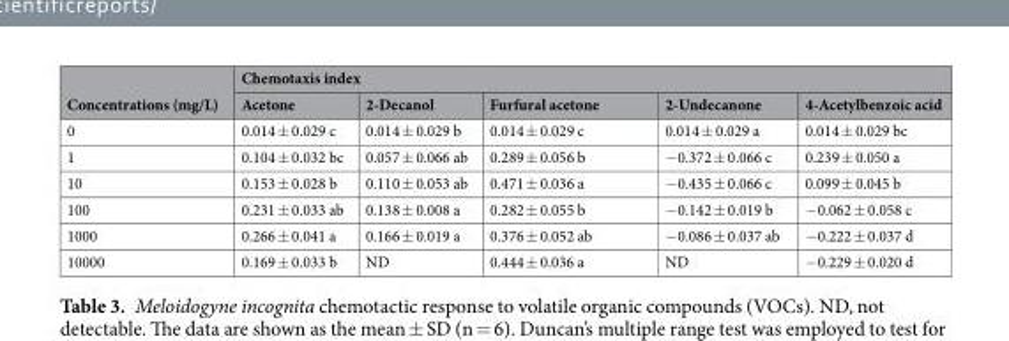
<table><thead><tr><td rowspan="2">Concentrations (mg/L)</td><td colspan="5">Chemotaxis index</td></tr><tr><td>Acetone</td><td>2-Decanol</td><td>Furfural acetone</td><td>2-Undecanone</td><td>4-Acetylbenzoic acid</td></tr></thead><tbody><tr><td>0</td><td>0.014 ± 0.029 c</td><td>0.014 ± 0.029 b</td><td>0.014 ± 0.029 c</td><td>0.014 ± 0.029 a</td><td>0.014 ± 0.029 bc</td></tr><tr><td>1</td><td>0.104 ± 0.032 bc</td><td>0.057 ± 0.066 ab</td><td>0.289 ± 0.056 b</td><td>−0.372 ± 0.066 c</td><td>0.239 ± 0.050 a</td></tr><tr><td>10</td><td>0.153 ± 0.028 b</td><td>0.110 ± 0.053 ab</td><td>0.471 ± 0.036 a</td><td>−0.435 ± 0.066 c</td><td>0.099 ± 0.045 b</td></tr><tr><td>100</td><td>0.231 ± 0.033 ab</td><td>0.138 ± 0.008 a</td><td>0.282 ± 0.055 b</td><td>−0.142 ± 0.019 b</td><td>−0.062 ± 0.058 c</td></tr><tr><td>1000</td><td>0.266 ± 0.041 a</td><td>0.166 ± 0.019 a</td><td>0.376 ± 0.052 ab</td><td>−0.086 ± 0.037 ab</td><td>−0.222 ± 0.037 d</td></tr><tr><td>10000</td><td>0.169 ± 0.033 b</td><td>ND</td><td>0.444 ± 0.036 a</td><td>ND</td><td>−0.229 ± 0.020 d</td></tr></tbody></table>